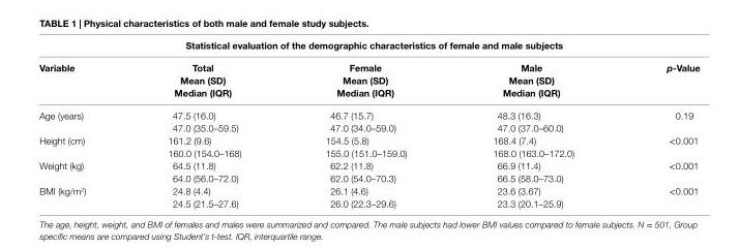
<table><thead><tr><td colspan="5">statistical evaluation of the demographic characteristics of female and male subjects</td></tr><tr><td>Variable</td><td>Total Mean (sD) Median (iQr)</td><td>Female Mean (sD) Median (iQr)</td><td>Male Mean (sD) Median (iQr)</td><td>p-Value</td></tr></thead><tbody><tr><td rowspan="2">Age (years)</td><td>47.5 (16.0)</td><td>46.7 (15.7)</td><td>48.3 (16.3)</td><td rowspan="2">0.19</td></tr><tr><td>47.0 (35.0–59.5)</td><td>47.0 (34.0–59.0)</td><td>47.0 (37.0–60.0)</td></tr><tr><td rowspan="2">Height (cm)</td><td>161.2 (9.6)</td><td>154.5 (5.8)</td><td>168.4 (7.4)</td><td rowspan="2">&lt;0.001</td></tr><tr><td>160.0 (154.0–168)</td><td>155.0 (151.0–159.0)</td><td>168.0 (163.0–172.0)</td></tr><tr><td rowspan="2">Weight (kg)</td><td>64.5 (11.8)</td><td>62.2 (11.8)</td><td>66.9 (11.4)</td><td rowspan="2">&lt;0.001</td></tr><tr><td>64.0 (56.0–72.0)</td><td>62.0 (54.0–70.3)</td><td>66.5 (58.0–73.0)</td></tr><tr><td rowspan="2">BMI (kg/m<sup>2</sup>)</td><td>24.8 (4.4)</td><td>26.1 (4.6)</td><td>23.6 (3.67)</td><td rowspan="2">&lt;0.001</td></tr><tr><td>24.5 (21.5–27.6)</td><td>26.0 (22.3–29.6)</td><td>23.3 (20.1–25.9)</td></tr></tbody></table>